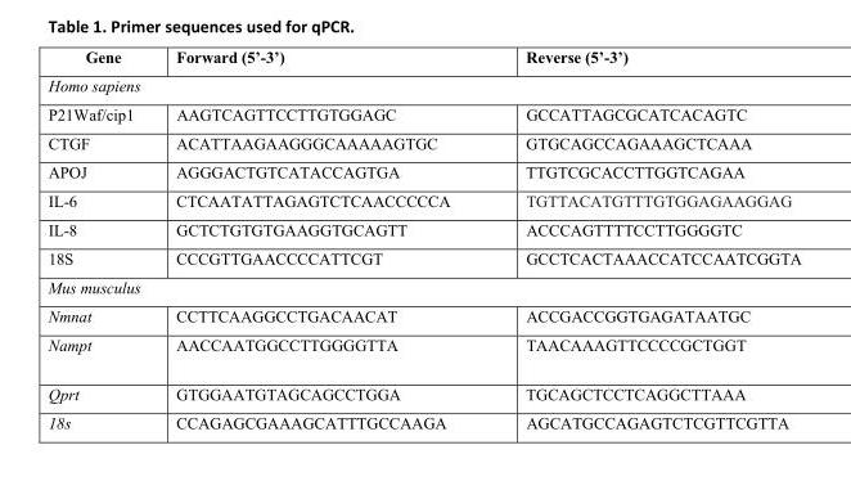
<table><tbody><tr><td>Gene</td><td>Forward (5’-3’)</td><td>Reverse (5’-3’)</td></tr><tr><td colspan="3">Homo sapiens</td></tr><tr><td>P21Waf/cip1</td><td>AAGTCAGTTCCTTGTGGAGC</td><td>GCCATTAGCGCATCACAGTC</td></tr><tr><td>CTGF</td><td>ACATTAAGAAGGGCAAAAAGTGC</td><td>GTGCAGCCAGAAAGCTCAAA</td></tr><tr><td>APOJ</td><td>AGGGACTGTCATACCAGTGA</td><td>TTGTCGCACCTTGGTCAGAA</td></tr><tr><td>IL-6</td><td>CTCAATATTAGAGTCTCAACCCCCA</td><td>TGTTACATGTTTGTGGAGAAGGAG</td></tr><tr><td>IL-8</td><td>GCTCTGTGTGAAGGTGCAGTT</td><td>ACCCAGTTTTCCTTGGGGTC</td></tr><tr><td>18S</td><td>CCCGTTGAACCCCATTCGT</td><td>GCCTCACTAAACCATCCAATCGGTA</td></tr><tr><td colspan="3">Mus musculus</td></tr><tr><td>Nmnat</td><td>CCTTCAAGGCCTGACAACAT</td><td>ACCGACCGGTGAGATAATGC</td></tr><tr><td>Nampt</td><td>AACCAATGGCCTTGGGGTTA</td><td>TAACAAAGTTCCCCGCTGGT</td></tr><tr><td>Qprt</td><td>GTGGAATGTAGCAGCCTGGA</td><td>TGCAGCTCCTCAGGCTTAAA</td></tr><tr><td>18s</td><td>CCAGAGCGAAAGCATTTGCCAAGA</td><td>AGCATGCCAGAGTCTCGTTCGTTA</td></tr></tbody></table>